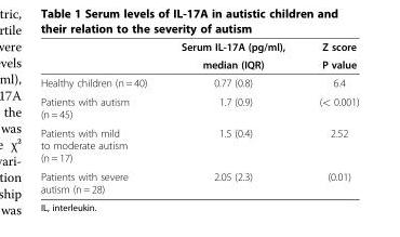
<table><thead><tr><td rowspan="2"></td><td rowspan="2">Serum IL-17A (pg/ml), median (IQR)</td><td rowspan="2">Z score P value</td></tr><tr></tr></thead><tbody><tr><td>Healthy children (n = 40)</td><td>0.77 (0.8)</td><td>6.4</td></tr><tr><td>Patients with autism (n = 45)</td><td>1.7 (0.9)</td><td>(&lt; 0.001)</td></tr><tr><td>Patients with mild to moderate autism (n = 17)</td><td>1.5 (0.4)</td><td>2.52</td></tr><tr><td>Patients with severe autism (n = 28)</td><td>2.05 (2.3)</td><td>(0.01)</td></tr></tbody></table>